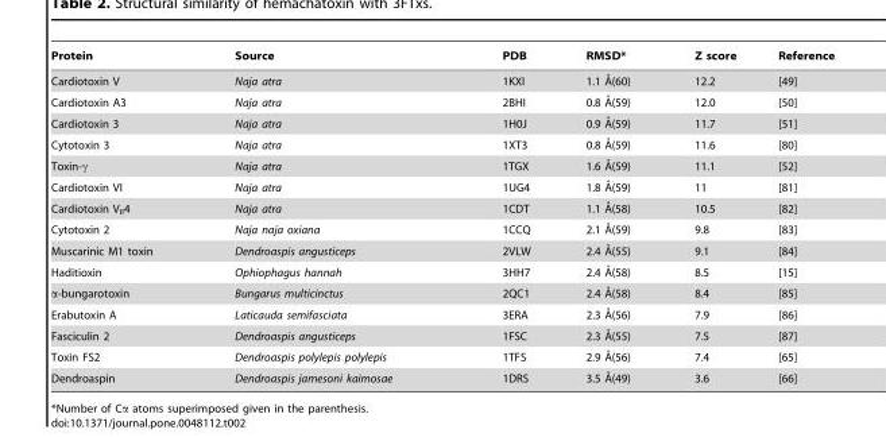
<table><thead><tr><td>Protein</td><td>Source</td><td>PDB</td><td>RMSD*</td><td>Z score</td><td>Reference</td></tr></thead><tbody><tr><td>Cardiotoxin V</td><td>Naja atra</td><td>1KXI</td><td>1.1 A˚(60)</td><td>12.2</td><td>[49]</td></tr><tr><td>Cardiotoxin A3</td><td>Naja atra</td><td>2BHI</td><td>0.8 A˚(59)</td><td>12.0</td><td>[50]</td></tr><tr><td>Cardiotoxin 3</td><td>Naja atra</td><td>1H0J</td><td>0.9 A˚(59)</td><td>11.7</td><td>[51]</td></tr><tr><td>Cytotoxin 3</td><td>Naja atra</td><td>1XT3</td><td>0.8 A˚(59)</td><td>11.6</td><td>[80]</td></tr><tr><td>Toxin-γ</td><td>Naja atra</td><td>1TGX</td><td>1.6 A˚(59)</td><td>11.1</td><td>[52]</td></tr><tr><td>Cardiotoxin VI</td><td>Naja atra</td><td>1UG4</td><td>1.8 A˚(59)</td><td>11</td><td>[81]</td></tr><tr><td>Cardiotoxin V<sub>II</sub>4</td><td>Naja atra</td><td>1CDT</td><td>1.1 A˚(58)</td><td>10.5</td><td>[82]</td></tr><tr><td>Cytotoxin 2</td><td>Naja naja oxiana</td><td>1CCQ</td><td>2.1 A˚(59)</td><td>9.8</td><td>[83]</td></tr><tr><td>Muscarinic M1 toxin</td><td>Dendroaspis angusticeps</td><td>2VLW</td><td>2.4 A˚(55)</td><td>9.1</td><td>[84]</td></tr><tr><td>Haditioxin</td><td>Ophiophagus hannah</td><td>3HH7</td><td>2.4 A˚(58)</td><td>8.5</td><td>[15]</td></tr><tr><td>α-bungarotoxin</td><td>Bungarus multicinctus</td><td>2QC1</td><td>2.4 A˚(58)</td><td>8.4</td><td>[85]</td></tr><tr><td>Erabutoxin A</td><td>Laticauda semifasciata</td><td>3ERA</td><td>2.3 A˚(56)</td><td>7.9</td><td>[86]</td></tr><tr><td>Fasciculin 2</td><td>Dendroaspis angusticeps</td><td>1FSC</td><td>2.3 A˚(55)</td><td>7.5</td><td>[87]</td></tr><tr><td>Toxin FS2</td><td>Dendroaspis polylepis polylepis</td><td>1TFS</td><td>2.9 A˚(56)</td><td>7.4</td><td>[65]</td></tr><tr><td>Dendroaspin</td><td>Dendroaspis jamesoni kaimosae</td><td>1DRS</td><td>3.5 A˚(49)</td><td>3.6</td><td>[66]</td></tr></tbody></table>